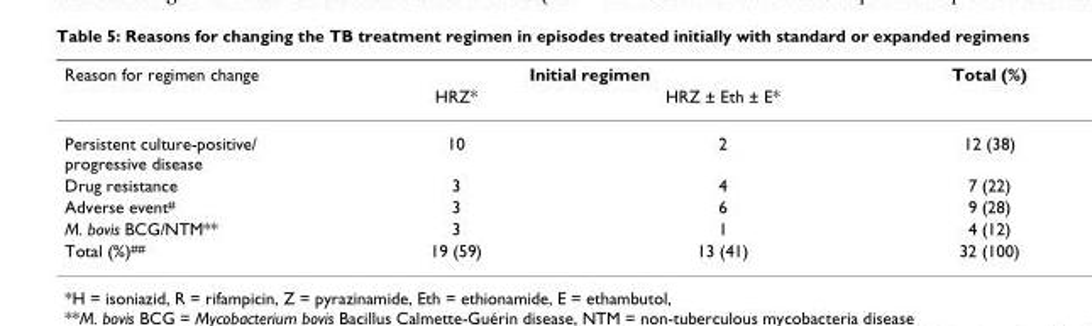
<table><thead><tr><td rowspan="2">Reason for regimen change</td><td colspan="2">Initial regimen</td><td rowspan="2">Total (%)</td></tr><tr><td>HRZ*</td><td>HRZ ± Eth ± E*</td></tr></thead><tbody><tr><td>Persistent culture-positive/ progressive disease</td><td>10</td><td>2</td><td>12 (38)</td></tr><tr><td>Drug resistance</td><td>3</td><td>4</td><td>7 (22)</td></tr><tr><td>Adverse event<sup>#</sup></td><td>3</td><td>6</td><td>9 (28)</td></tr><tr><td>M. bovis BCG/NTM**</td><td>3</td><td>1</td><td>4 (12)</td></tr><tr><td>Total (%)<sup>##</sup></td><td>19 (59)</td><td>13 (41)</td><td>32 (100)</td></tr></tbody></table>